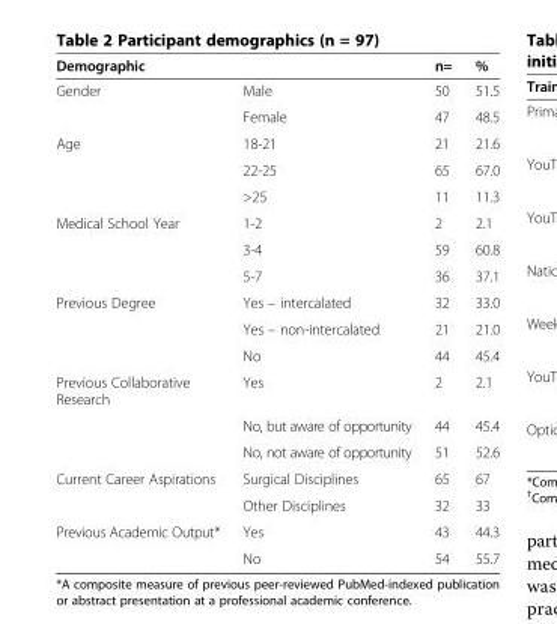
<table><thead><tr><td>Demographic</td><td></td><td>n=</td><td>%</td></tr></thead><tbody><tr><td rowspan="2">Gender</td><td>Male</td><td>50</td><td>51.5</td></tr><tr><td>Female</td><td>47</td><td>48.5</td></tr><tr><td rowspan="3">Age</td><td>18-21</td><td>21</td><td>21.6</td></tr><tr><td>22-25</td><td>65</td><td>67.0</td></tr><tr><td>&gt;25</td><td>11</td><td>11.3</td></tr><tr><td rowspan="3">Medical School Year</td><td>1-2</td><td>2</td><td>2.1</td></tr><tr><td>3-4</td><td>59</td><td>60.8</td></tr><tr><td>5-7</td><td>36</td><td>37.1</td></tr><tr><td rowspan="3">Previous Degree</td><td>Yes – intercalated</td><td>32</td><td>33.0</td></tr><tr><td>Yes – non-intercalated</td><td>21</td><td>21.0</td></tr><tr><td>No</td><td>44</td><td>45.4</td></tr><tr><td rowspan="3">Previous Collaborative Research</td><td>Yes</td><td>2</td><td>2.1</td></tr><tr><td>No, but aware of opportunity</td><td>44</td><td>45.4</td></tr><tr><td>No, not aware of opportunity</td><td>51</td><td>52.6</td></tr><tr><td rowspan="2">Current Career Aspirations</td><td>Surgical Disciplines</td><td>65</td><td>67</td></tr><tr><td>Other Disciplines</td><td>32</td><td>33</td></tr><tr><td rowspan="2">Previous Academic Output*</td><td>Yes</td><td>43</td><td>44.3</td></tr><tr><td>No</td><td>54</td><td>55.7</td></tr></tbody></table>